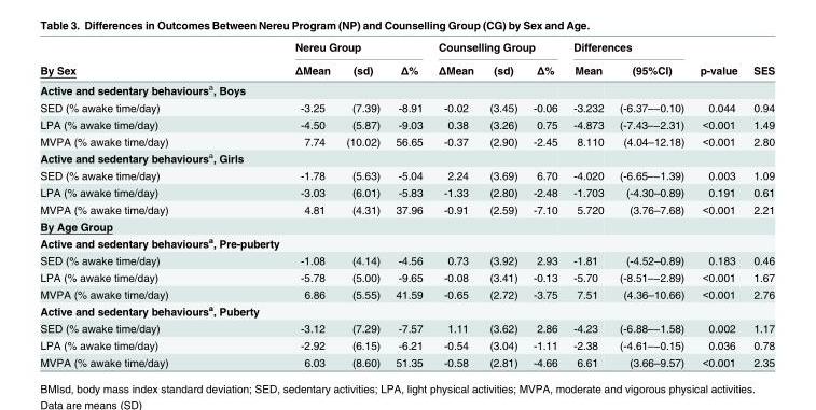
<table><thead><tr><td rowspan="2">By Sex</td><td colspan="3">Nereu Group</td><td colspan="3">Counselling Group</td><td colspan="2">Differences</td><td rowspan="2">p-value</td><td rowspan="2">SES</td></tr><tr><td>ΔMean</td><td>(sd)</td><td>Δ%</td><td>ΔMean</td><td>(sd)</td><td>Δ%</td><td>Mean</td><td>(95%CI)</td></tr></thead><tbody><tr><td colspan="11">Active and sedentary behaviours<sup>a</sup>, Boys</td></tr><tr><td>SED (% awake time/day)</td><td>-3.25</td><td>(7.39)</td><td>-8.91</td><td>-0.02</td><td>(3.45)</td><td>-0.06</td><td>-3.232</td><td>(-6.37–−0.10)</td><td>0.044</td><td>0.94</td></tr><tr><td>LPA (% awake time/day)</td><td>-4.50</td><td>(5.87)</td><td>-9.03</td><td>0.38</td><td>(3.26)</td><td>0.75</td><td>-4.873</td><td>(-7.43–−2.31)</td><td>&lt;0.001</td><td>1.49</td></tr><tr><td>MVPA (% awake time/day)</td><td>7.74</td><td>(10.02)</td><td>56.65</td><td>-0.37</td><td>(2.90)</td><td>-2.45</td><td>8.110</td><td>(4.04–12.18)</td><td>&lt;0.001</td><td>2.80</td></tr><tr><td colspan="11">Active and sedentary behaviours<sup>a</sup>, Girls</td></tr><tr><td>SED (% awake time/day)</td><td>-1.78</td><td>(5.63)</td><td>-5.04</td><td>2.24</td><td>(3.69)</td><td>6.70</td><td>-4.020</td><td>(-6.65–−1.39)</td><td>0.003</td><td>1.09</td></tr><tr><td>LPA (% awake time/day)</td><td>-3.03</td><td>(6.01)</td><td>-5.83</td><td>-1.33</td><td>(2.80)</td><td>-2.48</td><td>-1.703</td><td>(-4.30–0.89)</td><td>0.191</td><td>0.61</td></tr><tr><td>MVPA (% awake time/day)</td><td>4.81</td><td>(4.31)</td><td>37.96</td><td>-0.91</td><td>(2.59)</td><td>-7.10</td><td>5.720</td><td>(3.76–7.68)</td><td>&lt;0.001</td><td>2.21</td></tr><tr><td colspan="11">By Age Group</td></tr><tr><td colspan="11">Active and sedentary behaviours<sup>a</sup>, Pre-puberty</td></tr><tr><td>SED (% awake time/day)</td><td>-1.08</td><td>(4.14)</td><td>-4.56</td><td>0.73</td><td>(3.92)</td><td>2.93</td><td>-1.81</td><td>(-4.52–0.89)</td><td>0.183</td><td>0.46</td></tr><tr><td>LPA (% awake time/day)</td><td>-5.78</td><td>(5.00)</td><td>-9.65</td><td>-0.08</td><td>(3.41)</td><td>-0.13</td><td>-5.70</td><td>(-8.51–−2.89)</td><td>&lt;0.001</td><td>1.67</td></tr><tr><td>MVPA (% awake time/day)</td><td>6.86</td><td>(5.55)</td><td>41.59</td><td>-0.65</td><td>(2.72)</td><td>-3.75</td><td>7.51</td><td>(4.36–10.66)</td><td>&lt;0.001</td><td>2.76</td></tr><tr><td colspan="11">Active and sedentary behaviours<sup>a</sup>, Puberty</td></tr><tr><td>SED (% awake time/day)</td><td>-3.12</td><td>(7.29)</td><td>-7.57</td><td>1.11</td><td>(3.62)</td><td>2.86</td><td>-4.23</td><td>(-6.88–−1.58)</td><td>0.002</td><td>1.17</td></tr><tr><td>LPA (% awake time/day)</td><td>-2.92</td><td>(6.15)</td><td>-6.21</td><td>-0.54</td><td>(3.04)</td><td>-1.11</td><td>-2.38</td><td>(-4.61–−0.15)</td><td>0.036</td><td>0.78</td></tr><tr><td>MVPA (% awake time/day)</td><td>6.03</td><td>(8.60)</td><td>51.35</td><td>-0.58</td><td>(2.81)</td><td>-4.66</td><td>6.61</td><td>(3.66–9.57)</td><td>&lt;0.001</td><td>2.35</td></tr></tbody></table>